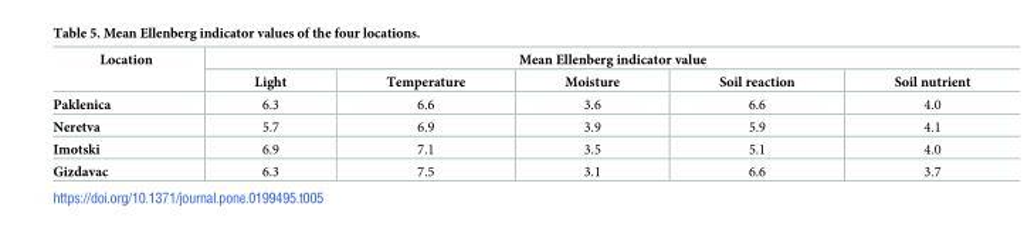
<table><thead><tr><td rowspan="2">Location</td><td colspan="5">Mean Ellenberg indicator value</td></tr><tr><td>Light</td><td>Temperature</td><td>Moisture</td><td>Soil reaction</td><td>Soil nutrient</td></tr></thead><tbody><tr><td>Paklenica</td><td>6.3</td><td>6.6</td><td>3.6</td><td>6.6</td><td>4.0</td></tr><tr><td>Neretva</td><td>5.7</td><td>6.9</td><td>3.9</td><td>5.9</td><td>4.1</td></tr><tr><td>Imotski</td><td>6.9</td><td>7.1</td><td>3.5</td><td>5.1</td><td>4.0</td></tr><tr><td>Gizdavac</td><td>6.3</td><td>7.5</td><td>3.1</td><td>6.6</td><td>3.7</td></tr></tbody></table>